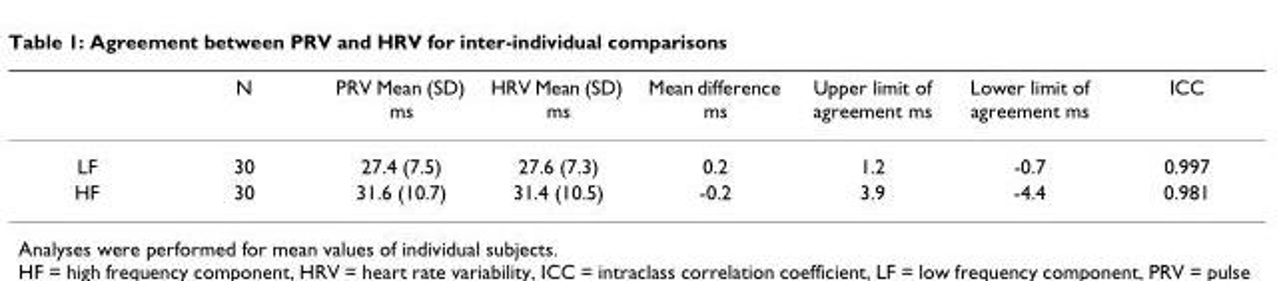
<table><thead><tr><td></td><td>N</td><td>PRV Mean (SD) ms</td><td>HRV Mean (SD) ms</td><td>Mean difference ms</td><td>Upper limit of agreement ms</td><td>Lower limit of agreement ms</td><td>ICC</td></tr></thead><tbody><tr><td>LF</td><td>30</td><td>27.4 (7.5)</td><td>27.6 (7.3)</td><td>0.2</td><td>1.2</td><td>-0.7</td><td>0.997</td></tr><tr><td>HF</td><td>30</td><td>31.6 (10.7)</td><td>31.4 (10.5)</td><td>-0.2</td><td>3.9</td><td>-4.4</td><td>0.981</td></tr></tbody></table>